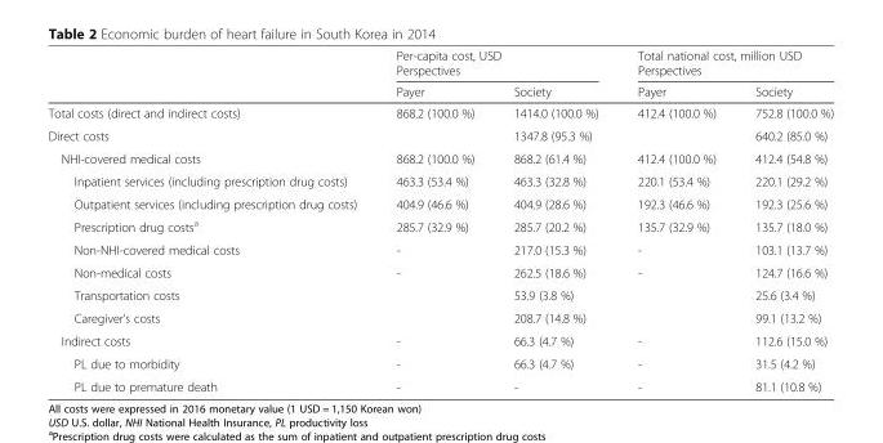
<table><thead><tr><td rowspan="3"></td><td rowspan="2" colspan="2">Per-capita cost, USD Perspectives</td><td rowspan="2" colspan="2">Total national cost, million USD Perspectives</td></tr><tr></tr><tr><td>Payer</td><td>Society</td><td>Payer</td><td>Society</td></tr></thead><tbody><tr><td>Total costs (direct and indirect costs)</td><td>868.2 (100.0 %)</td><td>1414.0 (100.0 %)</td><td>412.4 (100.0 %)</td><td>752.8 (100.0 %)</td></tr><tr><td>Direct costs</td><td></td><td>1347.8 (95.3 %)</td><td></td><td>640.2 (85.0 %)</td></tr><tr><td>NHI-covered medical costs</td><td>868.2 (100.0 %)</td><td>868.2 (61.4 %)</td><td>412.4 (100.0 %)</td><td>412.4 (54.8 %)</td></tr><tr><td>Inpatient services (including prescription drug costs)</td><td>463.3 (53.4 %)</td><td>463.3 (32.8 %)</td><td>220.1 (53.4 %)</td><td>220.1 (29.2 %)</td></tr><tr><td>Outpatient services (including prescription drug costs)</td><td>404.9 (46.6 %)</td><td>404.9 (28.6 %)</td><td>192.3 (46.6 %)</td><td>192.3 (25.6 %)</td></tr><tr><td>Prescription drug costs<sup>a</sup></td><td>285.7 (32.9 %)</td><td>285.7 (20.2 %)</td><td>135.7 (32.9 %)</td><td>135.7 (18.0 %)</td></tr><tr><td>Non-NHI-covered medical costs</td><td>-</td><td>217.0 (15.3 %)</td><td>-</td><td>103.1 (13.7 %)</td></tr><tr><td>Non-medical costs</td><td>-</td><td>262.5 (18.6 %)</td><td>-</td><td>124.7 (16.6 %)</td></tr><tr><td>Transportation costs</td><td></td><td>53.9 (3.8 %)</td><td></td><td>25.6 (3.4 %)</td></tr><tr><td>Caregiver’s costs</td><td></td><td>208.7 (14.8 %)</td><td></td><td>99.1 (13.2 %)</td></tr><tr><td>Indirect costs</td><td>-</td><td>66.3 (4.7 %)</td><td>-</td><td>112.6 (15.0 %)</td></tr><tr><td>PL due to morbidity</td><td>-</td><td>66.3 (4.7 %)</td><td>-</td><td>31.5 (4.2 %)</td></tr><tr><td>PL due to premature death</td><td>-</td><td>-</td><td>-</td><td>81.1 (10.8 %)</td></tr></tbody></table>